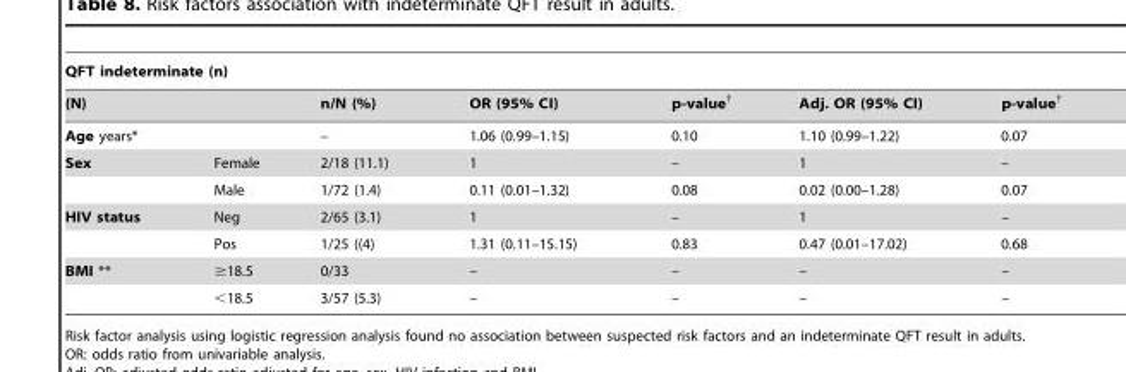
<table><thead><tr><td colspan="7">QFT indeterminate (n)</td></tr><tr><td colspan="2">(N)</td><td rowspan="2">n/N (%) –</td><td rowspan="2">OR (95% CI) 1.06 (0.99–1.15)</td><td rowspan="2">p-value† 0.10</td><td rowspan="2">Adj. OR (95% CI) 1.10 (0.99–1.22)</td><td rowspan="2">p-value† 0.07</td></tr><tr><td>Age years*</td><td></td></tr></thead><tbody><tr><td rowspan="2">Sex</td><td>Female</td><td>2/18 (11.1)</td><td>1</td><td>–</td><td>1</td><td>–</td></tr><tr><td>Male</td><td>1/72 (1.4)</td><td>0.11 (0.01–1.32)</td><td>0.08</td><td>0.02 (0.00–1.28)</td><td>0.07</td></tr><tr><td rowspan="2">HIV status</td><td>Neg</td><td>2/65 (3.1)</td><td>1</td><td>–</td><td>1</td><td>–</td></tr><tr><td>Pos</td><td>1/25 ((4)</td><td>1.31 (0.11–15.15)</td><td>0.83</td><td>0.47 (0.01–17.02)</td><td>0.68</td></tr><tr><td rowspan="2">BMI **</td><td>≥18.5</td><td>0/33</td><td>–</td><td>–</td><td>–</td><td>–</td></tr><tr><td>&lt;18.5</td><td>3/57 (5.3)</td><td>–</td><td>–</td><td>–</td><td>–</td></tr></tbody></table>